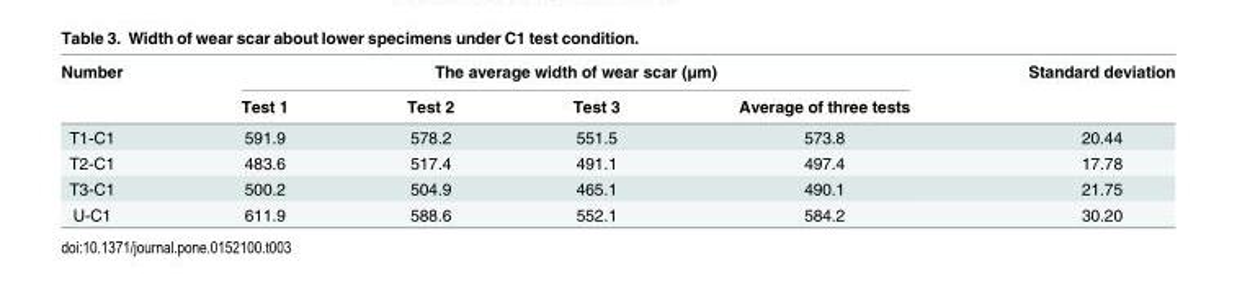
<table><thead><tr><td rowspan="2">Number</td><td colspan="4">The average width of wear scar (μm)</td><td rowspan="2">Standard deviation</td></tr><tr><td>Test 1</td><td>Test 2</td><td>Test 3</td><td>Average of three tests</td></tr></thead><tbody><tr><td>T1-C1</td><td>591.9</td><td>578.2</td><td>551.5</td><td>573.8</td><td>20.44</td></tr><tr><td>T2-C1</td><td>483.6</td><td>517.4</td><td>491.1</td><td>497.4</td><td>17.78</td></tr><tr><td>T3-C1</td><td>500.2</td><td>504.9</td><td>465.1</td><td>490.1</td><td>21.75</td></tr><tr><td>U-C1</td><td>611.9</td><td>588.6</td><td>552.1</td><td>584.2</td><td>30.20</td></tr></tbody></table>